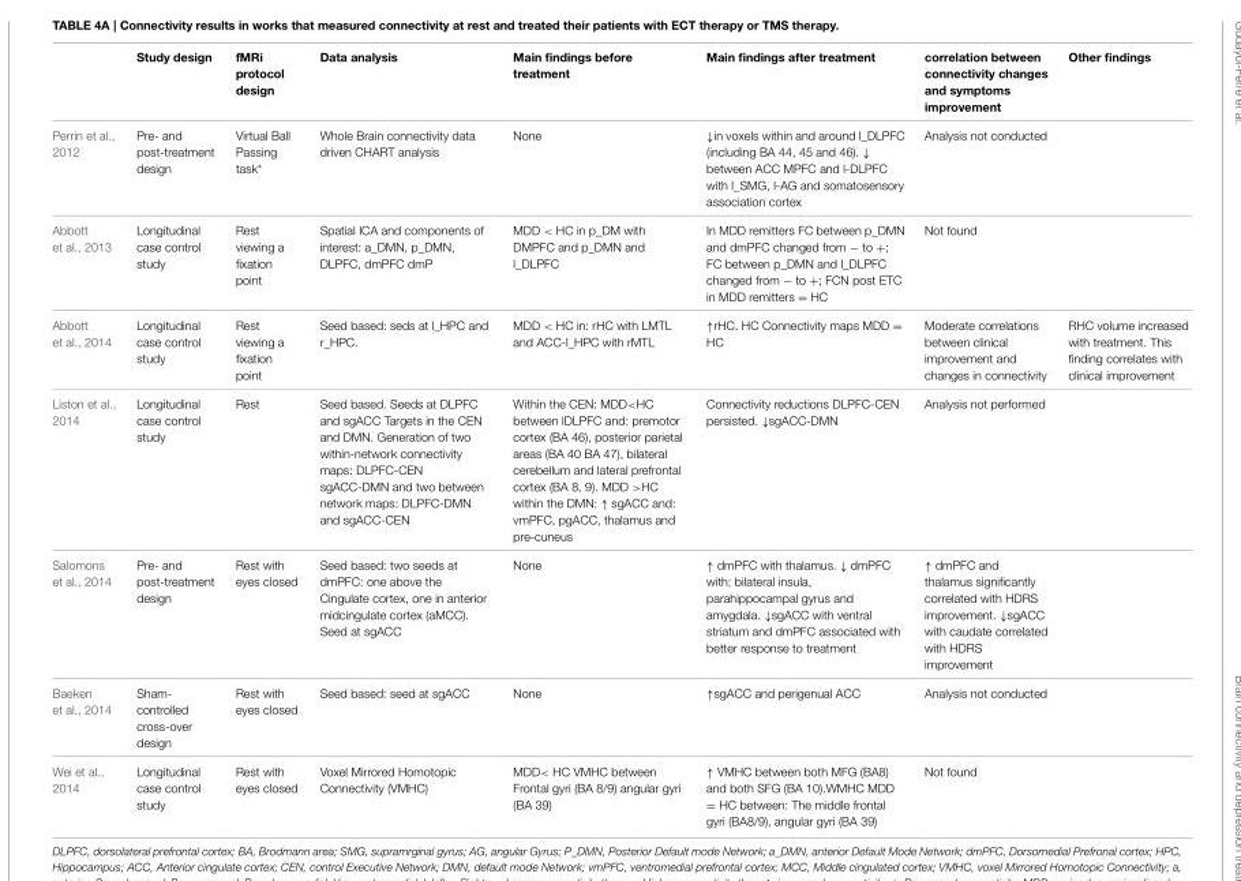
<table><thead><tr><td></td><td>Study design</td><td>fMRi protocol design</td><td>Data analysis</td><td>Main findings before treatment</td><td>Main findings after treatment</td><td>correlation between connectivity changes and symptoms improvement</td><td>Other findings</td></tr></thead><tbody><tr><td>Perrin et al., 2012</td><td>Pre- and post-treatment design</td><td>Virtual Ball Passing task*</td><td>Whole Brain connectivity data driven CHART analysis</td><td>None</td><td>↓in voxels within and around l_DLPFC (including BA 44, 45 and 46). ↓ between ACC MPFC and l-DLPFC with l_SMG, l-AG and somatosensory association cortex</td><td>Analysis not conducted</td><td></td></tr><tr><td>Abbott et al., 2013</td><td>Longitudinal case control study</td><td>Rest viewing a fixation point</td><td>Spatial ICA and components of interest: a_DMN, p_DMN, DLPFC, dmPFC dmP</td><td>MDD &lt; HC in p_DM with DMPFC and p_DMN and l_DLPFC</td><td>In MDD remitters FC between p_DMN and dmPFC changed from − to +; FC between p_DMN and l_DLPFC changed from − to +; FCN post ETC in MDD remitters = HC</td><td>Not found</td><td></td></tr><tr><td>Abbott et al., 2014</td><td>Longitudinal case control study</td><td>Rest viewing a fixation point</td><td>Seed based: seds at l_HPC and r_HPC.</td><td>MDD &lt; HC in: rHC with LMTL and ACC-l_HPC with rMTL</td><td>↑rHC. HC Connectivity maps MDD = HC</td><td>Moderate correlations between clinical improvement and changes in connectivity</td><td>RHC volume increased with treatment. This finding correlates with clinical improvement</td></tr><tr><td>Liston et al., 2014</td><td>Longitudinal case control study</td><td>Rest</td><td>Seed based. Seeds at DLPFC and sgACC Targets in the CEN and DMN. Generation of two within-network connectivity maps: DLPFC-CEN sgACC-DMN and two between network maps: DLPFC-DMN and sgACC-CEN</td><td>Within the CEN: MDD&lt;HC between lDLPFC and: premotor cortex (BA 46), posterior parietal areas (BA 40 BA 47), bilateral cerebellum and lateral prefrontal cortex (BA 8, 9). MDD &gt;HC within the DMN: ↑ sgACC and: vmPFC, pgACC, thalamus and pre-cuneus</td><td>Connectivity reductions DLPFC-CEN persisted. ↓sgACC-DMN</td><td>Analysis not performed</td><td></td></tr><tr><td>Salomons et al., 2014</td><td>Pre- and post-treatment design</td><td>Rest with eyes closed</td><td>Seed based: two seeds at dmPFC: one above the Cingulate cortex, one in anterior midcingulate cortex (aMCC). Seed at sgACC</td><td>None</td><td>↑ dmPFC with thalamus. ↓ dmPFC with: bilateral insula, parahippocampal gyrus and amygdala. ↓sgACC with ventral striatum and dmPFC associated with better response to treatment</td><td>↑ dmPFC and thalamus significantly correlated with HDRS improvement. ↓sgACC with caudate correlated with HDRS improvement</td><td></td></tr><tr><td>Baeken et al., 2014</td><td>Sham- controlled cross-over design</td><td>Rest with eyes closed</td><td>Seed based: seed at sgACC</td><td>None</td><td>↑sgACC and perigenual ACC</td><td>Analysis not conducted</td><td></td></tr><tr><td>Wei et al., 2014</td><td>Longitudinal case control study</td><td>Rest with eyes closed</td><td>Voxel Mirrored Homotopic Connectivity (VMHC)</td><td>MDD&lt; HC VMHC between Frontal gyri (BA 8/9) angular gyri (BA 39)</td><td>↑ VMHC between both MFG (BA8) and both SFG (BA 10).WMHC MDD = HC between: The middle frontal gyri (BA8/9), angular gyri (BA 39)</td><td>Not found</td><td></td></tr></tbody></table>